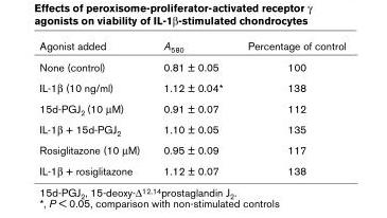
<table><thead><tr><td>Agonist added</td><td>A580</td><td>Percentage of control</td></tr></thead><tbody><tr><td>None (control)</td><td>0.81 ± 0.05</td><td>100</td></tr><tr><td>IL-1β (10 ng/ml)</td><td>1.12 ± 0.04*</td><td>138</td></tr><tr><td>15d-PGJ2 (10 µM)</td><td>0.91 ± 0.07</td><td>112</td></tr><tr><td>IL-1β + 15d-PGJ2</td><td>1.10 ± 0.05</td><td>135</td></tr><tr><td>Rosiglitazone (10 µM)</td><td>0.95 ± 0.09</td><td>117</td></tr><tr><td>IL-1β + rosiglitazone</td><td>1.12 ± 0.07</td><td>138</td></tr></tbody></table>